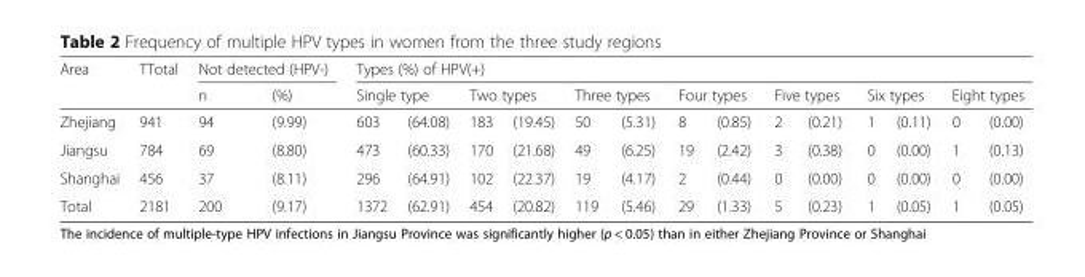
<table><thead><tr><td rowspan="3">Area Zhejiang</td><td rowspan="3">TTotal 941</td><td colspan="2">Not detected (HPV-)</td><td colspan="14">Types (%) of HPV(+)</td></tr><tr><td rowspan="2">n 94</td><td rowspan="2">(%) (9.99)</td><td colspan="2">Single type</td><td colspan="2">Two types</td><td colspan="2">Three types</td><td colspan="2">Four types</td><td colspan="2">Five types</td><td colspan="2">Six types</td><td colspan="2">Eight types</td></tr><tr><td>603</td><td>(64.08)</td><td>183</td><td>(19.45)</td><td>50</td><td>(5.31)</td><td>8</td><td>(0.85)</td><td>2</td><td>(0.21)</td><td>1</td><td>(0.11)</td><td>0</td><td>(0.00)</td></tr></thead><tbody><tr><td>Jiangsu</td><td>784</td><td>69</td><td>(8.80)</td><td>473</td><td>(60.33)</td><td>170</td><td>(21.68)</td><td>49</td><td>(6.25)</td><td>19</td><td>(2.42)</td><td>3</td><td>(0.38)</td><td>0</td><td>(0.00)</td><td>1</td><td>(0.13)</td></tr><tr><td>Shanghai</td><td>456</td><td>37</td><td>(8.11)</td><td>296</td><td>(64.91)</td><td>102</td><td>(22.37)</td><td>19</td><td>(4.17)</td><td>2</td><td>(0.44)</td><td>0</td><td>(0.00)</td><td>0</td><td>(0.00)</td><td>0</td><td>(0.00)</td></tr><tr><td>Total</td><td>2181</td><td>200</td><td>(9.17)</td><td>1372</td><td>(62.91)</td><td>454</td><td>(20.82)</td><td>119</td><td>(5.46)</td><td>29</td><td>(1.33)</td><td>5</td><td>(0.23)</td><td>1</td><td>(0.05)</td><td>1</td><td>(0.05)</td></tr></tbody></table>